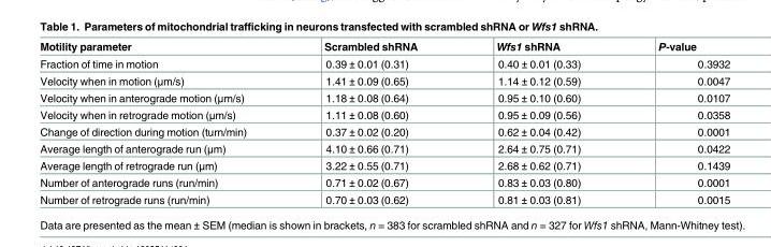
<table><thead><tr><td>Motility parameter</td><td>Scrambled shRNA</td><td>Wfs1 shRNA</td><td>P-value</td></tr></thead><tbody><tr><td>Fraction of time in motion</td><td>0.39 ± 0.01 (0.31)</td><td>0.40 ± 0.01 (0.33)</td><td>0.3932</td></tr><tr><td>Velocity when in motion (μm/s)</td><td>1.41 ± 0.09 (0.65)</td><td>1.14 ± 0.12 (0.59)</td><td>0.0047</td></tr><tr><td>Velocity when in anterograde motion (μm/s)</td><td>1.18 ± 0.08 (0.64)</td><td>0.95 ± 0.10 (0.60)</td><td>0.0107</td></tr><tr><td>Velocity when in retrograde motion (μm/s)</td><td>1.11 ± 0.08 (0.60)</td><td>0.95 ± 0.09 (0.56)</td><td>0.0358</td></tr><tr><td>Change of direction during motion (turn/min)</td><td>0.37 ± 0.02 (0.20)</td><td>0.62 ± 0.04 (0.42)</td><td>0.0001</td></tr><tr><td>Average length of anterograde run (μm)</td><td>4.10 ± 0.66 (0.71)</td><td>2.64 ± 0.75 (0.71)</td><td>0.0422</td></tr><tr><td>Average length of retrograde run (μm)</td><td>3.22 ± 0.55 (0.71)</td><td>2.68 ± 0.62 (0.71)</td><td>0.1439</td></tr><tr><td>Number of anterograde runs (run/min)</td><td>0.71 ± 0.02 (0.67)</td><td>0.83 ± 0.03 (0.80)</td><td>0.0001</td></tr><tr><td>Number of retrograde runs (run/min)</td><td>0.70 ± 0.03 (0.62)</td><td>0.81 ± 0.03 (0.81)</td><td>0.0015</td></tr></tbody></table>